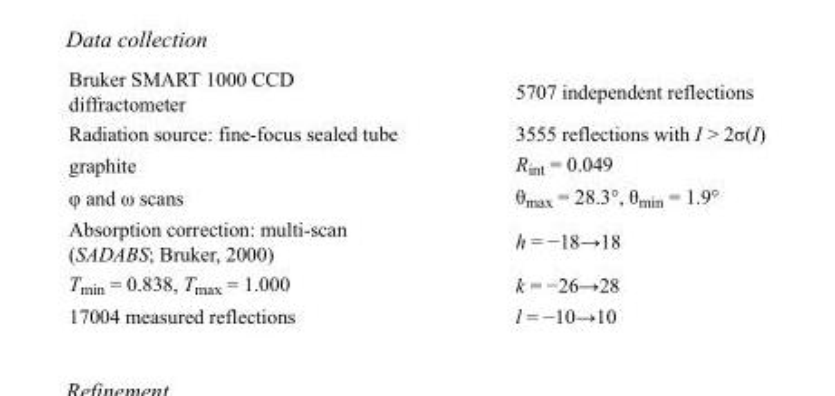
<table><tbody><tr><td>Bruker SMART 1000 CCD diffractometer</td><td>5707 independent reflections</td></tr><tr><td>Radiation source: fine-focus sealed tube</td><td>3555 reflections with I &gt; 2σ(I)</td></tr><tr><td>graphite</td><td>R<sub>int</sub> = 0.049</td></tr><tr><td>φ and ω scans</td><td>θ<sub>max</sub> = 28.3°, θ<sub>min</sub> = 1.9°</td></tr><tr><td>Absorption correction: multi-scan (SADABS; Bruker, 2000)</td><td>h = −18→18</td></tr><tr><td>T<sub>min</sub> = 0.838, T<sub>max</sub> = 1.000</td><td>k = −26→28</td></tr><tr><td>17004 measured reflections</td><td>l = −10→10</td></tr></tbody></table>